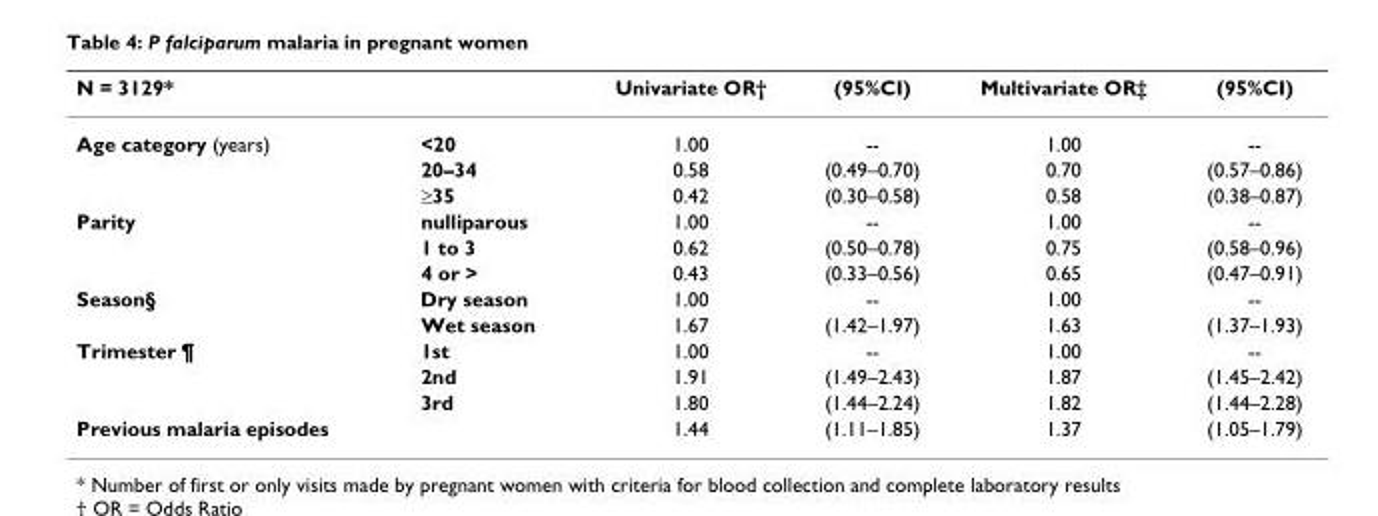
<table><thead><tr><td>N = 3129*</td><td></td><td>Univariate OR†</td><td>(95%CI)</td><td>Multivariate OR‡</td><td>(95%CI)</td></tr></thead><tbody><tr><td rowspan="3">Age category (years)</td><td>&lt;20</td><td>1.00</td><td>--</td><td>1.00</td><td>--</td></tr><tr><td>20–34</td><td>0.58</td><td>(0.49–0.70)</td><td>0.70</td><td>(0.57–0.86)</td></tr><tr><td>≥35</td><td>0.42</td><td>(0.30–0.58)</td><td>0.58</td><td>(0.38–0.87)</td></tr><tr><td rowspan="3">Parity</td><td>nulliparous</td><td>1.00</td><td>--</td><td>1.00</td><td>--</td></tr><tr><td>1 to 3</td><td>0.62</td><td>(0.50–0.78)</td><td>0.75</td><td>(0.58–0.96)</td></tr><tr><td>4 or &gt;</td><td>0.43</td><td>(0.33–0.56)</td><td>0.65</td><td>(0.47–0.91)</td></tr><tr><td rowspan="2">Season§</td><td>Dry season</td><td>1.00</td><td>--</td><td>1.00</td><td>--</td></tr><tr><td>Wet season</td><td>1.67</td><td>(1.42–1.97)</td><td>1.63</td><td>(1.37–1.93)</td></tr><tr><td rowspan="3">Trimester ¶</td><td>1st</td><td>1.00</td><td>--</td><td>1.00</td><td>--</td></tr><tr><td>2nd</td><td>1.91</td><td>(1.49–2.43)</td><td>1.87</td><td>(1.45–2.42)</td></tr><tr><td>3rd</td><td>1.80</td><td>(1.44–2.24)</td><td>1.82</td><td>(1.44–2.28)</td></tr><tr><td>Previous malaria episodes</td><td></td><td>1.44</td><td>(1.11–1.85)</td><td>1.37</td><td>(1.05–1.79)</td></tr></tbody></table>